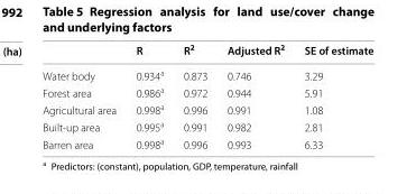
<table><thead><tr><td></td><td>R</td><td>R<sup>2</sup></td><td>Adjusted R<sup>2</sup></td><td>SE of estimate</td></tr></thead><tbody><tr><td>Water body</td><td>0.934<sup>a</sup></td><td>0.873</td><td>0.746</td><td>3.29</td></tr><tr><td>Forest area</td><td>0.986<sup>a</sup></td><td>0.972</td><td>0.944</td><td>5.91</td></tr><tr><td>Agricultural area</td><td>0.998<sup>a</sup></td><td>0.996</td><td>0.991</td><td>1.08</td></tr><tr><td>Built-up area</td><td>0.995<sup>a</sup></td><td>0.991</td><td>0.982</td><td>2.81</td></tr><tr><td>Barren area</td><td>0.998<sup>a</sup></td><td>0.996</td><td>0.993</td><td>6.33</td></tr></tbody></table>